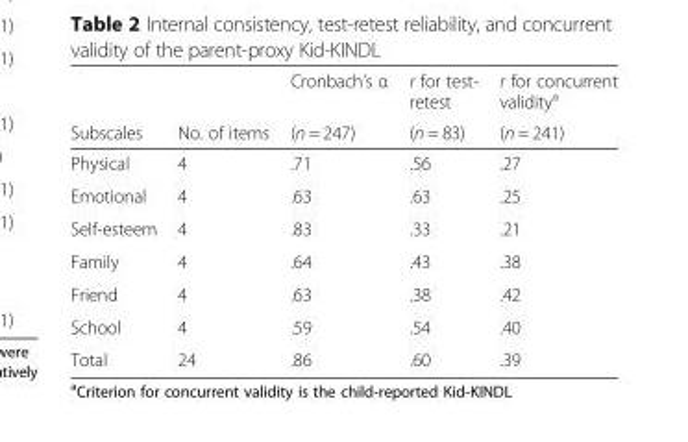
<table><thead><tr><td rowspan="2">Subscales</td><td rowspan="2">No. of items</td><td rowspan="2">Cronbach’s α (n = 247)</td><td rowspan="2">r for test- retest (n = 83)</td><td rowspan="2">r for concurrent validity<sup>a</sup> (n = 241)</td></tr><tr></tr></thead><tbody><tr><td>Physical</td><td>4</td><td>.71</td><td>.56</td><td>.27</td></tr><tr><td>Emotional</td><td>4</td><td>.63</td><td>.63</td><td>.25</td></tr><tr><td>Self-esteem</td><td>4</td><td>.83</td><td>.33</td><td>.21</td></tr><tr><td>Family</td><td>4</td><td>.64</td><td>.43</td><td>.38</td></tr><tr><td>Friend</td><td>4</td><td>.63</td><td>.38</td><td>.42</td></tr><tr><td>School</td><td>4</td><td>.59</td><td>.54</td><td>.40</td></tr><tr><td>Total</td><td>24</td><td>.86</td><td>.60</td><td>.39</td></tr></tbody></table>